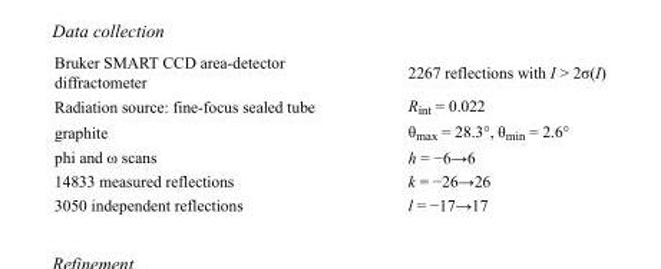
<table><tbody><tr><td>Bruker SMART CCD area-detector diffractometer</td><td>2267 reflections with I &gt; 2σ(I)</td></tr><tr><td>Radiation source: fine-focus sealed tube</td><td>R<sub>int</sub> = 0.022</td></tr><tr><td>graphite</td><td>θ<sub>max</sub> = 28.3°, θ<sub>min</sub> = 2.6°</td></tr><tr><td>phi and ω scans</td><td>h = −6→6</td></tr><tr><td>14833 measured reflections</td><td>k = −26→26</td></tr><tr><td>3050 independent reflections</td><td>l = −17→17</td></tr></tbody></table>